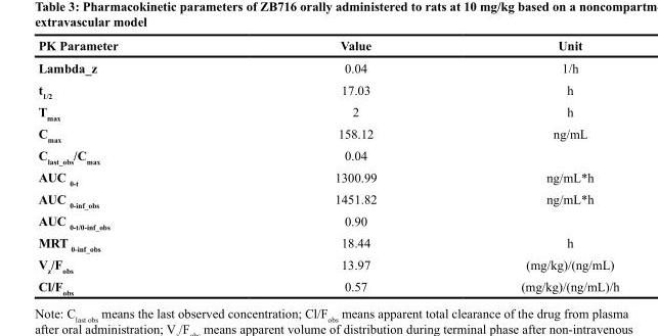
<table><thead><tr><td>PK Parameter</td><td>Value</td><td>Unit</td></tr></thead><tbody><tr><td>Lambda_z</td><td>0.04</td><td>1/h</td></tr><tr><td>t<sub>1/2</sub></td><td>17.03</td><td>h</td></tr><tr><td>T<sub>max</sub></td><td>2</td><td>h</td></tr><tr><td>C<sub>max</sub></td><td>158.12</td><td>ng/mL</td></tr><tr><td>C<sub>last_obs</sub>/C<sub>max</sub></td><td>0.04</td><td></td></tr><tr><td>AUC <sub>0-t</sub></td><td>1300.99</td><td>ng/mL*h</td></tr><tr><td>AUC <sub>0-inf_obs</sub></td><td>1451.82</td><td>ng/mL*h</td></tr><tr><td>AUC <sub>0-t/0-inf_obs</sub></td><td>0.90</td><td></td></tr><tr><td>MRT <sub>0-inf_obs</sub></td><td>18.44</td><td>h</td></tr><tr><td>V<sub>z</sub>/F<sub>obs</sub></td><td>13.97</td><td>(mg/kg)/(ng/mL)</td></tr><tr><td>Cl/F<sub>obs</sub></td><td>0.57</td><td>(mg/kg)/(ng/mL)/h</td></tr></tbody></table>